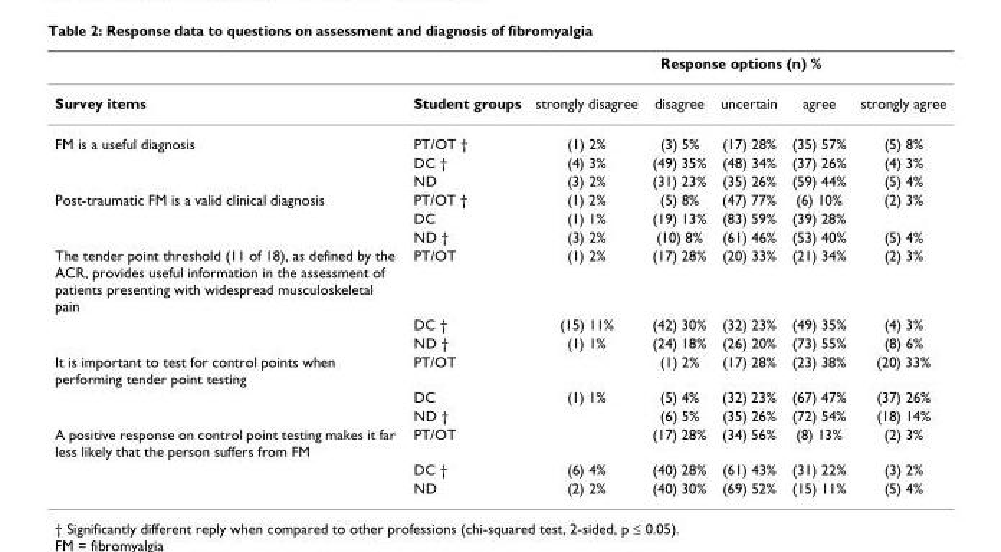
<table><thead><tr><td rowspan="2">Survey items</td><td rowspan="2">Student groups</td><td colspan="5">Response options (n) %</td></tr><tr><td>strongly disagree</td><td>disagree</td><td>uncertain</td><td>agree</td><td>strongly agree</td></tr></thead><tbody><tr><td rowspan="3">FM is a useful diagnosis</td><td>PT/OT †</td><td>(1) 2%</td><td>(3) 5%</td><td>(17) 28%</td><td>(35) 57%</td><td>(5) 8%</td></tr><tr><td>DC †</td><td>(4) 3%</td><td>(49) 35%</td><td>(48) 34%</td><td>(37) 26%</td><td>(4) 3%</td></tr><tr><td>ND</td><td>(3) 2%</td><td>(31) 23%</td><td>(35) 26%</td><td>(59) 44%</td><td>(5) 4%</td></tr><tr><td rowspan="3">Post-traumatic FM is a valid clinical diagnosis</td><td>PT/OT †</td><td>(1) 2%</td><td>(5) 8%</td><td>(47) 77%</td><td>(6) 10%</td><td>(2) 3%</td></tr><tr><td>DC</td><td>(1) 1%</td><td>(19) 13%</td><td>(83) 59%</td><td>(39) 28%</td><td></td></tr><tr><td>ND †</td><td>(3) 2%</td><td>(10) 8%</td><td>(61) 46%</td><td>(53) 40%</td><td>(5) 4%</td></tr><tr><td rowspan="3">The tender point threshold (11 of 18), as defined by the ACR, provides useful information in the assessment of patients presenting with widespread musculoskeletal pain</td><td>PT/OT</td><td>(1) 2%</td><td>(17) 28%</td><td>(20) 33%</td><td>(21) 34%</td><td>(2) 3%</td></tr><tr><td>DC †</td><td>(15) 11%</td><td>(42) 30%</td><td>(32) 23%</td><td>(49) 35%</td><td>(4) 3%</td></tr><tr><td>ND †</td><td>(1) 1%</td><td>(24) 18%</td><td>(26) 20%</td><td>(73) 55%</td><td>(8) 6%</td></tr><tr><td rowspan="3">It is important to test for control points when performing tender point testing</td><td>PT/OT</td><td></td><td>(1) 2%</td><td>(17) 28%</td><td>(23) 38%</td><td>(20) 33%</td></tr><tr><td>DC</td><td>(1) 1%</td><td>(5) 4%</td><td>(32) 23%</td><td>(67) 47%</td><td>(37) 26%</td></tr><tr><td>ND †</td><td></td><td>(6) 5%</td><td>(35) 26%</td><td>(72) 54%</td><td>(18) 14%</td></tr><tr><td rowspan="3">A positive response on control point testing makes it far less likely that the person suffers from FM</td><td>PT/OT</td><td></td><td>(17) 28%</td><td>(34) 56%</td><td>(8) 13%</td><td>(2) 3%</td></tr><tr><td>DC †</td><td>(6) 4%</td><td>(40) 28%</td><td>(61) 43%</td><td>(31) 22%</td><td>(3) 2%</td></tr><tr><td>ND</td><td>(2) 2%</td><td>(40) 30%</td><td>(69) 52%</td><td>(15) 11%</td><td>(5) 4%</td></tr></tbody></table>